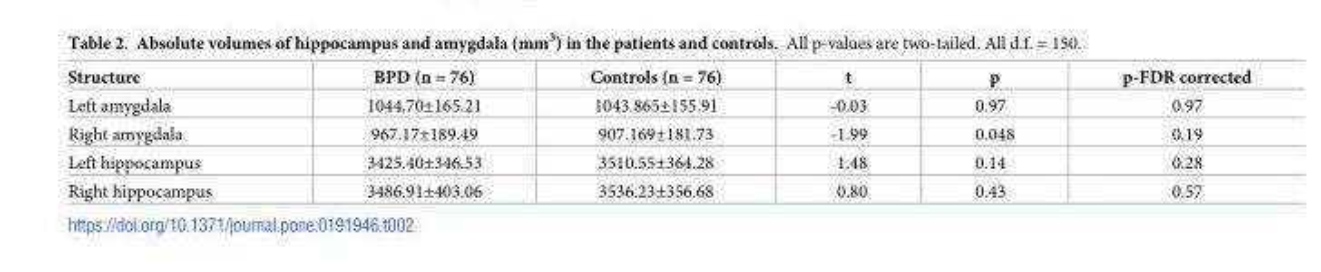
<table><thead><tr><td>Structure</td><td>BPD (n = 76)</td><td>Controls (n = 76)</td><td>t</td><td>p</td><td>p-FDR corrected</td></tr></thead><tbody><tr><td>Left amygdala</td><td>1044.70±165.21</td><td>1043.865±155.91</td><td>-0.03</td><td>0.97</td><td>0.97</td></tr><tr><td>Right amygdala</td><td>967.17±189.49</td><td>907.169±181.73</td><td>-1.99</td><td>0.048</td><td>0.19</td></tr><tr><td>Left hippocampus</td><td>3425.40±346.53</td><td>3510.55±364.28</td><td>1.48</td><td>0.14</td><td>0.28</td></tr><tr><td>Right hippocampus</td><td>3486.91±403.06</td><td>3536.23±356.68</td><td>0.80</td><td>0.43</td><td>0.57</td></tr></tbody></table>